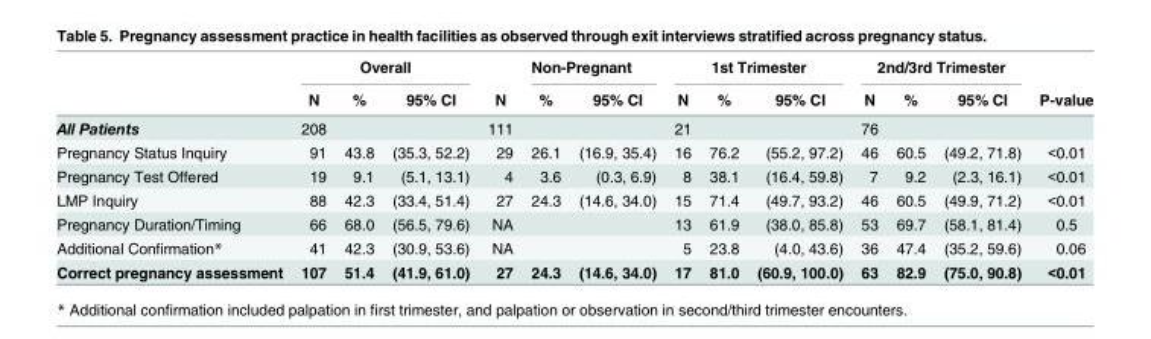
<table><thead><tr><td rowspan="2"></td><td colspan="3">Overall</td><td rowspan="2">N</td><td colspan="2">Non-Pregnant</td><td colspan="3">1st Trimester</td><td colspan="3">2nd/3rd Trimester</td><td rowspan="2">P-value</td></tr><tr><td>N</td><td>%</td><td>95% CI</td><td>%</td><td>95% CI</td><td>N</td><td>%</td><td>95% CI</td><td>N</td><td>%</td><td>95% CI</td></tr></thead><tbody><tr><td>All Patients</td><td>208</td><td></td><td></td><td>111</td><td></td><td></td><td>21</td><td></td><td></td><td>76</td><td></td><td></td><td></td></tr><tr><td>Pregnancy Status Inquiry</td><td>91</td><td>43.8</td><td>(35.3, 52.2)</td><td>29</td><td>26.1</td><td>(16.9, 35.4)</td><td>16</td><td>76.2</td><td>(55.2, 97.2)</td><td>46</td><td>60.5</td><td>(49.2, 71.8)</td><td>&lt;0.01</td></tr><tr><td>Pregnancy Test Offered</td><td>19</td><td>9.1</td><td>(5.1, 13.1)</td><td>4</td><td>3.6</td><td>(0.3, 6.9)</td><td>8</td><td>38.1</td><td>(16.4, 59.8)</td><td>7</td><td>9.2</td><td>(2.3, 16.1)</td><td>&lt;0.01</td></tr><tr><td>LMP Inquiry</td><td>88</td><td>42.3</td><td>(33.4, 51.4)</td><td>27</td><td>24.3</td><td>(14.6, 34.0)</td><td>15</td><td>71.4</td><td>(49.7, 93.2)</td><td>46</td><td>60.5</td><td>(49.9, 71.2)</td><td>&lt;0.01</td></tr><tr><td>Pregnancy Duration/Timing</td><td>66</td><td>68.0</td><td>(56.5, 79.6)</td><td>NA</td><td></td><td></td><td>13</td><td>61.9</td><td>(38.0, 85.8)</td><td>53</td><td>69.7</td><td>(58.1, 81.4)</td><td>0.5</td></tr><tr><td>Additional Confirmation*</td><td>41</td><td>42.3</td><td>(30.9, 53.6)</td><td>NA</td><td></td><td></td><td>5</td><td>23.8</td><td>(4.0, 43.6)</td><td>36</td><td>47.4</td><td>(35.2, 59.6)</td><td>0.06</td></tr><tr><td>Correct pregnancy assessment</td><td>107</td><td>51.4</td><td>(41.9, 61.0)</td><td>27</td><td>24.3</td><td>(14.6, 34.0)</td><td>17</td><td>81.0</td><td>(60.9, 100.0)</td><td>63</td><td>82.9</td><td>(75.0, 90.8)</td><td>&lt;0.01</td></tr></tbody></table>